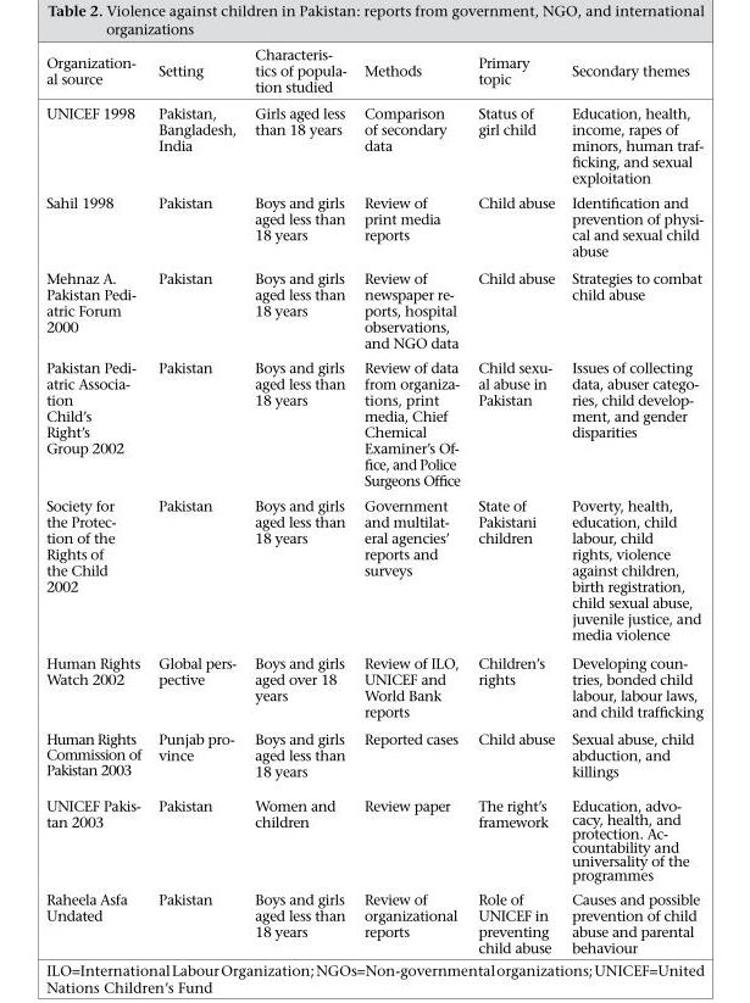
<table><thead><tr><td>Organization- al source</td><td>Setting</td><td>Characteris- tics of popula- tion studied</td><td>Methods</td><td>Primary topic</td><td>Secondary themes</td></tr></thead><tbody><tr><td>UNICEF 1998</td><td>Pakistan, Bangladesh, India</td><td>Girls aged less than 18 years</td><td>Comparison of secondary data</td><td>Status of girl child</td><td>Education, health, income, rapes of minors, human traf- ficking, and sexual exploitation</td></tr><tr><td>Sahil 1998</td><td>Pakistan</td><td>Boys and girls aged less than 18 years</td><td>Review of print media reports</td><td>Child abuse</td><td>Identification and prevention of physi- cal and sexual child abuse</td></tr><tr><td>Mehnaz A. Pakistan Pedi- atric Forum 2000</td><td>Pakistan</td><td>Boys and girls aged less than 18 years</td><td>Review of newspaper re- ports, hospital observations, and NGO data</td><td>Child abuse</td><td>Strategies to combat child abuse</td></tr><tr><td>Pakistan Pedi- atric Associa- tion Child’s Right’s Group 2002</td><td>Pakistan</td><td>Boys and girls aged less than 18 years</td><td>Review of data from organiza- tions, print media, Chief Chemical Examiner’s Of- fice, and Police Surgeons Office</td><td>Child sexu- al abuse in Pakistan</td><td>Issues of collecting data, abuser catego- ries, child develop- ment, and gender disparities</td></tr><tr><td>Society for the Protec- tion of the Rights of the Child 2002</td><td>Pakistan</td><td>Boys and girls aged less than 18 years</td><td>Government and multilat- eral agencies’ reports and surveys</td><td>State of Pakistani children</td><td>Poverty, health, education, child labour, child rights, violence against children, birth registration, child sexual abuse, juvenile justice, and media violence</td></tr><tr><td>Human Rights Watch 2002</td><td>Global pers- pective</td><td>Boys and girls aged over 18 years</td><td>Review of ILO, UNICEF and World Bank reports</td><td>Children’s rights</td><td>Developing coun- tries, bonded child labour, labour laws, and child trafficking</td></tr><tr><td>Human Rights Commission of Pakistan 2003</td><td>Punjab pro- vince</td><td>Boys and girls aged less than 18 years</td><td>Reported cases</td><td>Child abuse</td><td>Sexual abuse, child abduction, and killings</td></tr><tr><td>UNICEF Pakis- tan 2003</td><td>Pakistan</td><td>Women and children</td><td>Review paper</td><td>The right’s framework</td><td>Education, advo- cacy, health, and protection. Ac- countability and universality of the programmes</td></tr><tr><td>Raheela Asfa Undated</td><td>Pakistan</td><td>Boys and girls aged less than 18 years</td><td>Review of organizational reports</td><td>Role of UNICEF in preventing child abuse</td><td>Causes and possible prevention of child abuse and parental behaviour</td></tr></tbody></table>